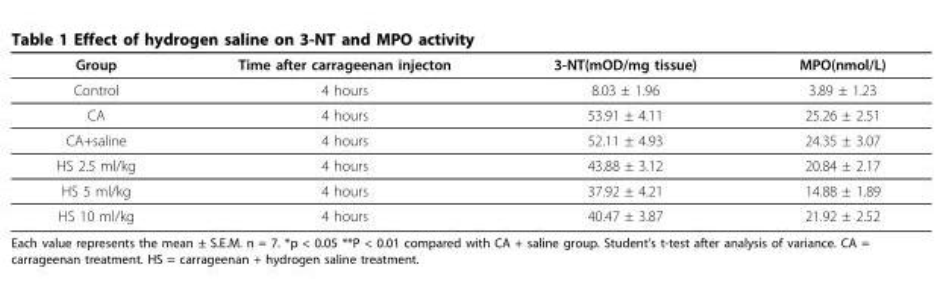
<table><thead><tr><td>Group</td><td>Time after carrageenan injecton</td><td>3-NT(mOD/mg tissue)</td><td>MPO(nmol/L)</td></tr></thead><tbody><tr><td>Control</td><td>4 hours</td><td>8.03 ± 1.96</td><td>3.89 ± 1.23</td></tr><tr><td>CA</td><td>4 hours</td><td>53.91 ± 4.11</td><td>25.26 ± 2.51</td></tr><tr><td>CA+saline</td><td>4 hours</td><td>52.11 ± 4.93</td><td>24.35 ± 3.07</td></tr><tr><td>HS 2.5 ml/kg</td><td>4 hours</td><td>43.88 ± 3.12</td><td>20.84 ± 2.17</td></tr><tr><td>HS 5 ml/kg</td><td>4 hours</td><td>37.92 ± 4.21</td><td>14.88 ± 1.89</td></tr><tr><td>HS 10 ml/kg</td><td>4 hours</td><td>40.47 ± 3.87</td><td>21.92 ± 2.52</td></tr></tbody></table>